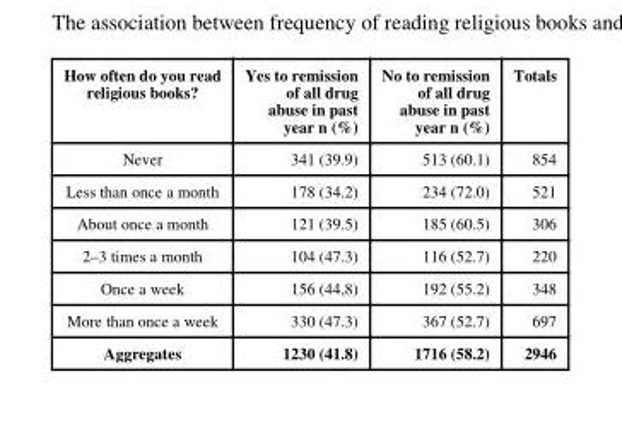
<table><thead><tr><td>How often do you read religious books?</td><td>Yes to remission of all drug abuse in past year n (%)</td><td>No to remission of all drug abuse in past year n (%)</td><td>Totals</td></tr></thead><tbody><tr><td>Never</td><td>341 (39.9)</td><td>513 (60.1)</td><td>854</td></tr><tr><td>Less than once a month</td><td>178 (34.2)</td><td>234 (72.0)</td><td>521</td></tr><tr><td>About once a month</td><td>121 (39.5)</td><td>185 (60.5)</td><td>306</td></tr><tr><td>2–3 times a month</td><td>104 (47.3)</td><td>116 (52.7)</td><td>220</td></tr><tr><td>Once a week</td><td>156 (44,8)</td><td>192 (55.2)</td><td>348</td></tr><tr><td>More than once a week</td><td>330 (47.3)</td><td>367 (52.7)</td><td>697</td></tr><tr><td>Aggregates</td><td>1230 (41.8)</td><td>1716 (58.2)</td><td>2946</td></tr></tbody></table>